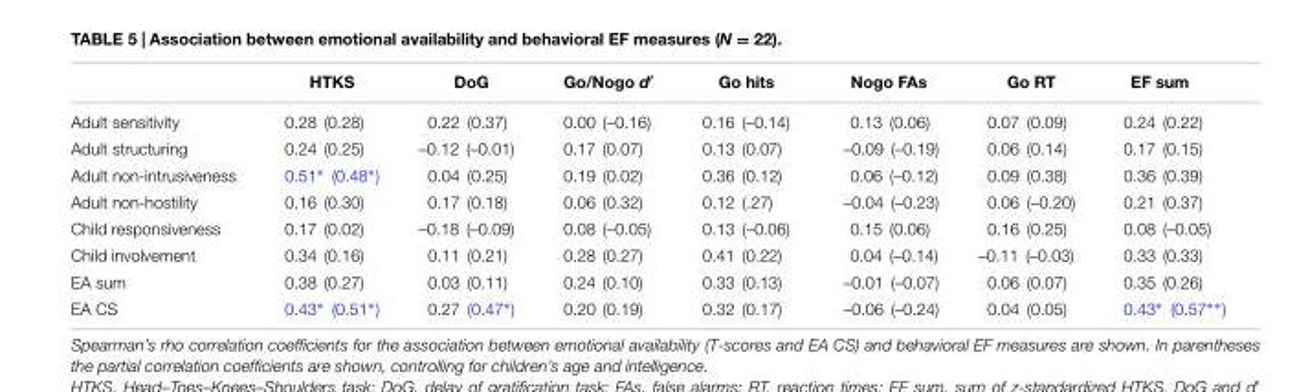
<table><thead><tr><td></td><td>HTKS</td><td>DoG</td><td>Go/Nogo d′</td><td>Go hits</td><td>Nogo FAs</td><td>Go RT</td><td>EF sum</td></tr></thead><tbody><tr><td>Adult sensitivity</td><td>0.28 (0.28)</td><td>0.22 (0.37)</td><td>0.00 (–0.16)</td><td>0.16 (–0.14)</td><td>0.13 (0.06)</td><td>0.07 (0.09)</td><td>0.24 (0.22)</td></tr><tr><td>Adult structuring</td><td>0.24 (0.25)</td><td>–0.12 (–0.01)</td><td>0.17 (0.07)</td><td>0.13 (0.07)</td><td>–0.09 (–0.19)</td><td>0.06 (0.14)</td><td>0.17 (0.15)</td></tr><tr><td>Adult non-intrusiveness</td><td>0.51∗ (0.48∗)</td><td>0.04 (0.25)</td><td>0.19 (0.02)</td><td>0.36 (0.12)</td><td>0.06 (–0.12)</td><td>0.09 (0.38)</td><td>0.36 (0.39)</td></tr><tr><td>Adult non-hostility</td><td>0.16 (0.30)</td><td>0.17 (0.18)</td><td>0.06 (0.32)</td><td>0.12 (.27)</td><td>–0.04 (–0.23)</td><td>0.06 (–0.20)</td><td>0.21 (0.37)</td></tr><tr><td>Child responsiveness</td><td>0.17 (0.02)</td><td>–0.18 (–0.09)</td><td>0.08 (–0.05)</td><td>0.13 (–0.06)</td><td>0.15 (0.06)</td><td>0.16 (0.25)</td><td>0.08 (–0.05)</td></tr><tr><td>Child involvement</td><td>0.34 (0.16)</td><td>0.11 (0.21)</td><td>0.28 (0.27)</td><td>0.41 (0.22)</td><td>0.04 (–0.14)</td><td>–0.11 (–0.03)</td><td>0.33 (0.33)</td></tr><tr><td>EA sum</td><td>0.38 (0.27)</td><td>0.03 (0.11)</td><td>0.24 (0.10)</td><td>0.33 (0.13)</td><td>–0.01 (–0.07)</td><td>0.06 (0.07)</td><td>0.35 (0.26)</td></tr><tr><td>EA CS</td><td>0.43∗ (0.51∗)</td><td>0.27 (0.47∗)</td><td>0.20 (0.19)</td><td>0.32 (0.17)</td><td>–0.06 (–0.24)</td><td>0.04 (0.05)</td><td>0.43∗ (0.57∗∗)</td></tr></tbody></table>